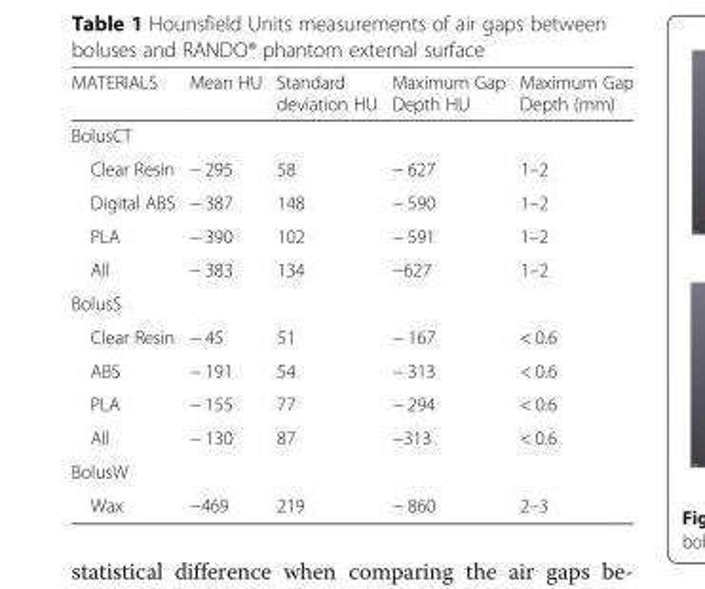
<table><thead><tr><td>MATERIALS</td><td>Mean HU</td><td>Standard deviation HU</td><td>Maximum Gap Depth HU</td><td>Maximum Gap Depth (mm)</td></tr></thead><tbody><tr><td colspan="5">BolusCT</td></tr><tr><td>Clear Resin</td><td>− 295</td><td>58</td><td>− 627</td><td>1–2</td></tr><tr><td>Digital ABS</td><td>− 387</td><td>148</td><td>− 590</td><td>1–2</td></tr><tr><td>PLA</td><td>− 390</td><td>102</td><td>− 591</td><td>1–2</td></tr><tr><td>All</td><td>− 383</td><td>134</td><td>−627</td><td>1–2</td></tr><tr><td colspan="5">BolusS</td></tr><tr><td>Clear Resin</td><td>− 45</td><td>51</td><td>− 167</td><td>&lt; 0.6</td></tr><tr><td>ABS</td><td>− 191</td><td>54</td><td>− 313</td><td>&lt; 0.6</td></tr><tr><td>PLA</td><td>− 155</td><td>77</td><td>− 294</td><td>&lt; 0.6</td></tr><tr><td>All</td><td>− 130</td><td>87</td><td>−313</td><td>&lt; 0.6</td></tr><tr><td colspan="5">BolusW</td></tr><tr><td>Wax</td><td>−469</td><td>219</td><td>− 860</td><td>2–3</td></tr></tbody></table>